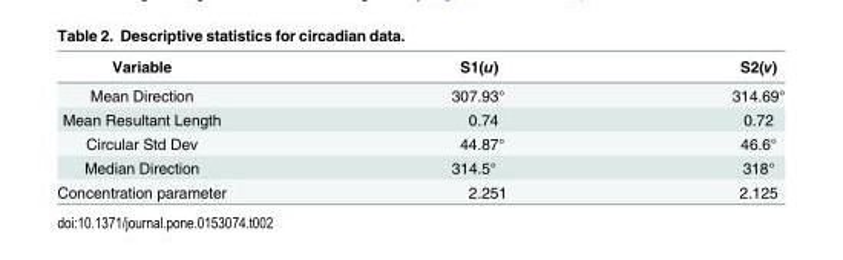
<table><thead><tr><td>Variable</td><td>S1(u)</td><td>S2(v)</td></tr></thead><tbody><tr><td>Mean Direction</td><td>307.93°</td><td>314.69°</td></tr><tr><td>Mean Resultant Length</td><td>0.74</td><td>0.72</td></tr><tr><td>Circular Std Dev</td><td>44.87°</td><td>46.6°</td></tr><tr><td>Median Direction</td><td>314.5°</td><td>318°</td></tr><tr><td>Concentration parameter</td><td>2.251</td><td>2.125</td></tr></tbody></table>